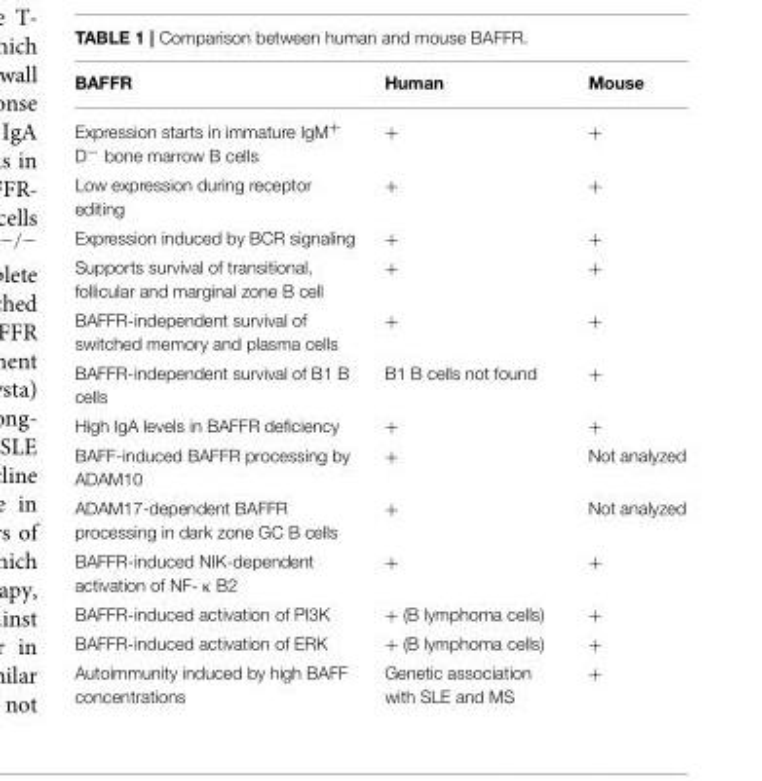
<table><thead><tr><td>BAFFR</td><td>Human</td><td>Mouse</td></tr></thead><tbody><tr><td>Expression starts in immature IgM<sup>+</sup> D<sup>−</sup> bone marrow B cells</td><td>+</td><td>+</td></tr><tr><td>Low expression during receptor editing</td><td>+</td><td>+</td></tr><tr><td>Expression induced by BCR signaling</td><td>+</td><td>+</td></tr><tr><td>Supports survival of transitional, follicular and marginal zone B cell</td><td>+</td><td>+</td></tr><tr><td>BAFFR-independent survival of switched memory and plasma cells</td><td>+</td><td>+</td></tr><tr><td>BAFFR-independent survival of B1 B cells</td><td>B1 B cells not found</td><td>+</td></tr><tr><td>High IgA levels in BAFFR deficiency</td><td>+</td><td>+</td></tr><tr><td>BAFF-induced BAFFR processing by ADAM10</td><td>+</td><td>Not analyzed</td></tr><tr><td>ADAM17-dependent BAFFR processing in dark zone GC B cells</td><td>+</td><td>Not analyzed</td></tr><tr><td>BAFFR-induced NIK-dependent activation of NF- κ B2</td><td>+</td><td>+</td></tr><tr><td>BAFFR-induced activation of PI3K</td><td>+ (B lymphoma cells)</td><td>+</td></tr><tr><td>BAFFR-induced activation of ERK</td><td>+ (B lymphoma cells)</td><td>+</td></tr><tr><td>Autoimmunity induced by high BAFF concentrations</td><td>Genetic association with SLE and MS</td><td>+</td></tr></tbody></table>